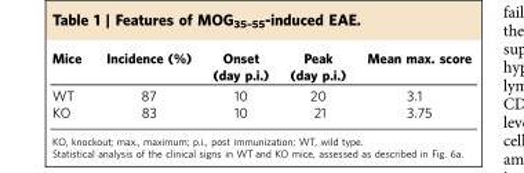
<table><thead><tr><td>Mice</td><td>Incidence (%)</td><td>Onset (day p.i.)</td><td>Peak (day p.i.)</td><td>Mean max. score</td></tr></thead><tbody><tr><td>WT</td><td>87</td><td>10</td><td>20</td><td>3.1</td></tr><tr><td>KO</td><td>83</td><td>10</td><td>21</td><td>3.75</td></tr></tbody></table>